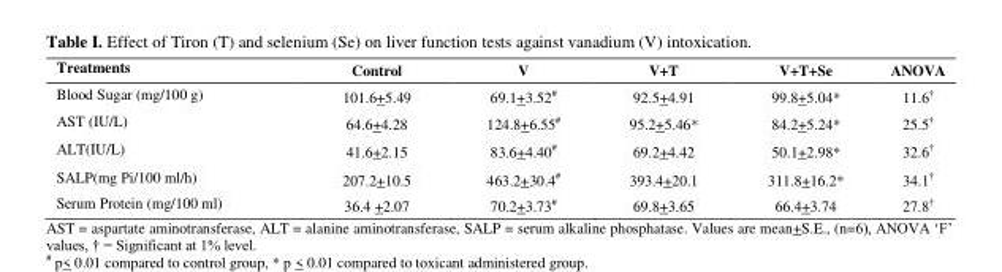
<table><thead><tr><td>Treatments</td><td>Control</td><td>V</td><td>V+T</td><td>V+T+Se</td><td>ANOVA</td></tr></thead><tbody><tr><td>Blood Sugar (mg/100 g)</td><td>101.6+5.49</td><td>69.1+3.52#</td><td>92.5+4.91</td><td>99.8+5.04*</td><td>11.6†</td></tr><tr><td>AST (IU/L)</td><td>64.6+4.28</td><td>124.8+6.55#</td><td>95.2+5.46*</td><td>84.2+5.24*</td><td>25.5†</td></tr><tr><td>ALT(IU/L)</td><td>41.6+2.15</td><td>83.6+4.40#</td><td>69.2+4.42</td><td>50.1+2.98*</td><td>32.6†</td></tr><tr><td>SALP(mg Pi/100 ml/h)</td><td>207.2+10.5</td><td>463.2+30.4#</td><td>393.4+20.1</td><td>311.8+16.2*</td><td>34.1†</td></tr><tr><td>Serum Protein (mg/100 ml)</td><td>36.4 +2.07</td><td>70.2+3.73#</td><td>69.8+3.65</td><td>66.4+3.74</td><td>27.8†</td></tr></tbody></table>